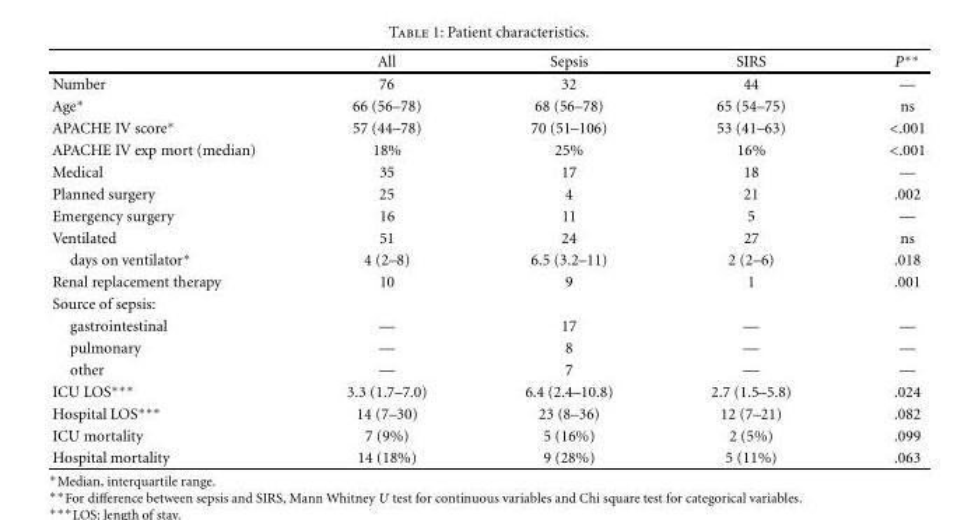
<table><thead><tr><td></td><td>All</td><td>Sepsis</td><td>SIRS</td><td>P∗∗</td></tr></thead><tbody><tr><td>Number</td><td>76</td><td>32</td><td>44</td><td>—</td></tr><tr><td>Age∗</td><td>66 (56–78)</td><td>68 (56–78)</td><td>65 (54–75)</td><td>ns</td></tr><tr><td>APACHE IV score∗</td><td>57 (44–78)</td><td>70 (51–106)</td><td>53 (41–63)</td><td>&lt;.001</td></tr><tr><td>APACHE IV exp mort (median)</td><td>18%</td><td>25%</td><td>16%</td><td>&lt;.001</td></tr><tr><td>Medical</td><td>35</td><td>17</td><td>18</td><td>—</td></tr><tr><td>Planned surgery</td><td>25</td><td>4</td><td>21</td><td>.002</td></tr><tr><td>Emergency surgery</td><td>16</td><td>11</td><td>5</td><td>—</td></tr><tr><td>Ventilated</td><td>51</td><td>24</td><td>27</td><td>ns</td></tr><tr><td>days on ventilator∗</td><td>4 (2–8)</td><td>6.5 (3.2–11)</td><td>2 (2–6)</td><td>.018</td></tr><tr><td>Renal replacement therapy</td><td>10</td><td>9</td><td>1</td><td>.001</td></tr><tr><td colspan="5">Source of sepsis:</td></tr><tr><td>gastrointestinal</td><td>—</td><td>17</td><td>—</td><td>—</td></tr><tr><td>pulmonary</td><td>—</td><td>8</td><td>—</td><td>—</td></tr><tr><td>other</td><td>—</td><td>7</td><td>—</td><td>—</td></tr><tr><td>ICU LOS∗∗∗</td><td>3.3 (1.7–7.0)</td><td>6.4 (2.4–10.8)</td><td>2.7 (1.5–5.8)</td><td>.024</td></tr><tr><td>Hospital LOS∗∗∗</td><td>14 (7–30)</td><td>23 (8–36)</td><td>12 (7–21)</td><td>.082</td></tr><tr><td>ICU mortality</td><td>7 (9%)</td><td>5 (16%)</td><td>2 (5%)</td><td>.099</td></tr><tr><td>Hospital mortality</td><td>14 (18%)</td><td>9 (28%)</td><td>5 (11%)</td><td>.063</td></tr></tbody></table>